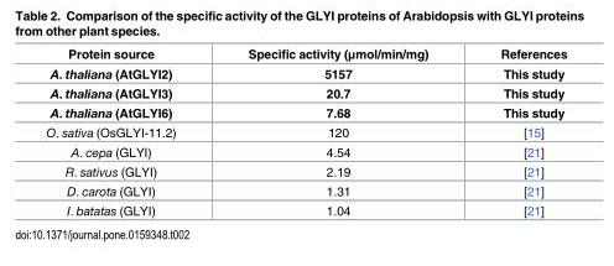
<table><thead><tr><td>Protein source</td><td>Specific activity (μmol/min/mg)</td><td>References</td></tr></thead><tbody><tr><td>A. thaliana (AtGLYI2)</td><td>5157</td><td>This study</td></tr><tr><td>A. thaliana (AtGLYI3)</td><td>20.7</td><td>This study</td></tr><tr><td>A. thaliana (AtGLYI6)</td><td>7.68</td><td>This study</td></tr><tr><td>O. sativa (OsGLYI-11.2)</td><td>120</td><td>[15]</td></tr><tr><td>A. cepa (GLYI)</td><td>4.54</td><td>[21]</td></tr><tr><td>R. sativus (GLYI)</td><td>2.19</td><td>[21]</td></tr><tr><td>D. carota (GLYI)</td><td>1.31</td><td>[21]</td></tr><tr><td>I. batatas (GLYI)</td><td>1.04</td><td>[21]</td></tr></tbody></table>